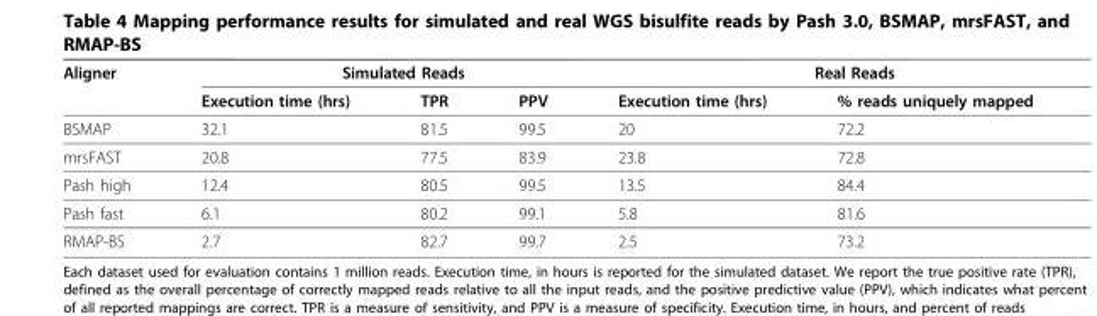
<table><thead><tr><td rowspan="2">Aligner</td><td colspan="3">Simulated Reads</td><td colspan="2">Real Reads</td></tr><tr><td>Execution time (hrs)</td><td>TPR</td><td>PPV</td><td>Execution time (hrs)</td><td>% reads uniquely mapped</td></tr></thead><tbody><tr><td>BSMAP</td><td>32.1</td><td>81.5</td><td>99.5</td><td>20</td><td>72.2</td></tr><tr><td>mrsFAST</td><td>20.8</td><td>77.5</td><td>83.9</td><td>23.8</td><td>72.8</td></tr><tr><td>Pash high</td><td>12.4</td><td>80.5</td><td>99.5</td><td>13.5</td><td>84.4</td></tr><tr><td>Pash fast</td><td>6.1</td><td>80.2</td><td>99.1</td><td>5.8</td><td>81.6</td></tr><tr><td>RMAP-BS</td><td>2.7</td><td>82.7</td><td>99.7</td><td>2.5</td><td>73.2</td></tr></tbody></table>